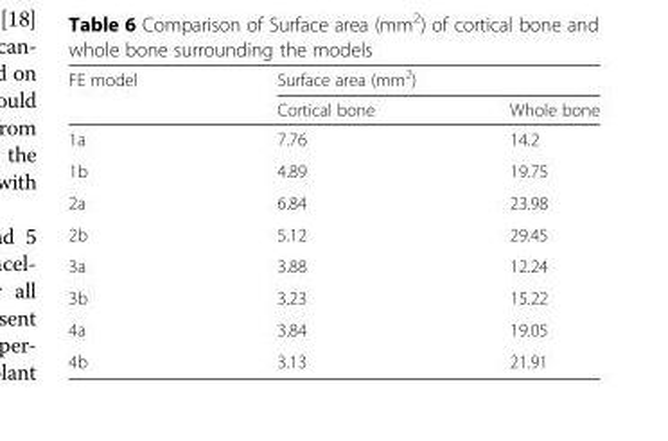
<table><thead><tr><td rowspan="2">FE model</td><td colspan="2">Surface area (mm<sup>2</sup>)</td></tr><tr><td>Cortical bone</td><td>Whole bone</td></tr></thead><tbody><tr><td>1a</td><td>7.76</td><td>14.2</td></tr><tr><td>1b</td><td>4.89</td><td>19.75</td></tr><tr><td>2a</td><td>6.84</td><td>23.98</td></tr><tr><td>2b</td><td>5.12</td><td>29.45</td></tr><tr><td>3a</td><td>3.88</td><td>12.24</td></tr><tr><td>3b</td><td>3.23</td><td>15.22</td></tr><tr><td>4a</td><td>3.84</td><td>19.05</td></tr><tr><td>4b</td><td>3.13</td><td>21.91</td></tr></tbody></table>